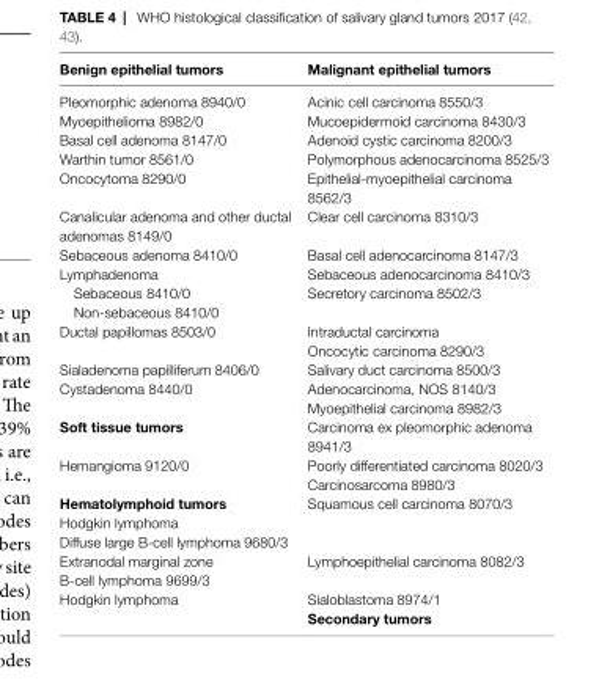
<table><thead><tr><td>Benign epithelial tumors</td><td>Malignant epithelial tumors</td></tr></thead><tbody><tr><td>Pleomorphic adenoma 8940/0</td><td>Acinic cell carcinoma 8550/3</td></tr><tr><td>Myoepithelioma 8982/0</td><td>Mucoepidermoid carcinoma 8430/3</td></tr><tr><td>Basal cell adenoma 8147/0</td><td>Adenoid cystic carcinoma 8200/3</td></tr><tr><td>Warthin tumor 8561/0</td><td>Polymorphous adenocarcinoma 8525/3</td></tr><tr><td>Oncocytoma 8290/0</td><td>Epithelial-myoepithelial carcinoma 8562/3</td></tr><tr><td>Canalicular adenoma and other ductal adenomas 8149/0</td><td>Clear cell carcinoma 8310/3</td></tr><tr><td>Sebaceous adenoma 8410/0</td><td>Basal cell adenocarcinoma 8147/3</td></tr><tr><td>Lymphadenoma</td><td>Sebaceous adenocarcinoma 8410/3</td></tr><tr><td>Sebaceous 8410/0</td><td>Secretory carcinoma 8502/3</td></tr><tr><td colspan="2">Non-sebaceous 8410/0</td></tr><tr><td rowspan="2">Ductal papillomas 8503/0</td><td>Intraductal carcinoma</td></tr><tr><td>Oncocytic carcinoma 8290/3</td></tr><tr><td>Sialadenoma papilliferum 8406/0</td><td>Salivary duct carcinoma 8500/3</td></tr><tr><td rowspan="2">Cystadenoma 8440/0</td><td>Adenocarcinoma, NOS 8140/3</td></tr><tr><td>Myoepithelial carcinoma 8982/3</td></tr><tr><td>soft tissue tumors</td><td>Carcinoma ex pleomorphic adenoma 8941/3</td></tr><tr><td rowspan="2">Hemangioma 9120/0</td><td>Poorly differentiated carcinoma 8020/3</td></tr><tr><td>Carcinosarcoma 8980/3</td></tr><tr><td>hematolymphoid tumors</td><td>Squamous cell carcinoma 8070/3</td></tr><tr><td colspan="2">Hodgkin lymphoma</td></tr><tr><td colspan="2">Diffuse large B-cell lymphoma 9680/3</td></tr><tr><td>Extranodal marginal zone B-cell lymphoma 9699/3</td><td>Lymphoepithelial carcinoma 8082/3</td></tr><tr><td rowspan="2">Hodgkin lymphoma</td><td>Sialoblastoma 8974/1</td></tr><tr><td>secondary tumors</td></tr></tbody></table>